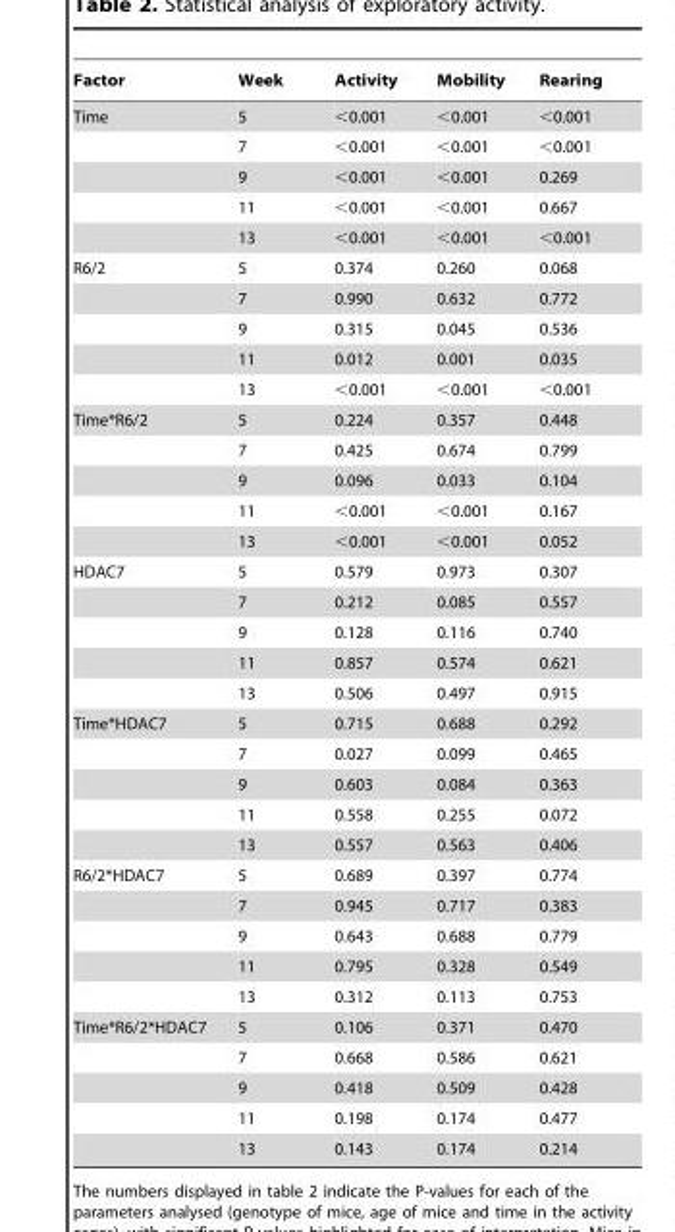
<table><thead><tr><td>Factor</td><td>Week</td><td>Activity</td><td>Mobility</td><td>Rearing</td></tr></thead><tbody><tr><td rowspan="5">Time</td><td>5</td><td>&lt;0.001</td><td>&lt;0.001</td><td>&lt;0.001</td></tr><tr><td>7</td><td>&lt;0.001</td><td>&lt;0.001</td><td>&lt;0.001</td></tr><tr><td>9</td><td>&lt;0.001</td><td>&lt;0.001</td><td>0.269</td></tr><tr><td>11</td><td>&lt;0.001</td><td>&lt;0.001</td><td>0.667</td></tr><tr><td>13</td><td>&lt;0.001</td><td>&lt;0.001</td><td>&lt;0.001</td></tr><tr><td rowspan="5">R6/2</td><td>5</td><td>0.374</td><td>0.260</td><td>0.068</td></tr><tr><td>7</td><td>0.990</td><td>0.632</td><td>0.772</td></tr><tr><td>9</td><td>0.315</td><td>0.045</td><td>0.536</td></tr><tr><td>11</td><td>0.012</td><td>0.001</td><td>0.035</td></tr><tr><td>13</td><td>&lt;0.001</td><td>&lt;0.001</td><td>&lt;0.001</td></tr><tr><td rowspan="5">Time*R6/2</td><td>5</td><td>0.224</td><td>0.357</td><td>0.448</td></tr><tr><td>7</td><td>0.425</td><td>0.674</td><td>0.799</td></tr><tr><td>9</td><td>0.096</td><td>0.033</td><td>0.104</td></tr><tr><td>11</td><td>&lt;0.001</td><td>&lt;0.001</td><td>0.167</td></tr><tr><td>13</td><td>&lt;0.001</td><td>&lt;0.001</td><td>0.052</td></tr><tr><td rowspan="5">HDAC7</td><td>5</td><td>0.579</td><td>0.973</td><td>0.307</td></tr><tr><td>7</td><td>0.212</td><td>0.085</td><td>0.557</td></tr><tr><td>9</td><td>0.128</td><td>0.116</td><td>0.740</td></tr><tr><td>11</td><td>0.857</td><td>0.574</td><td>0.621</td></tr><tr><td>13</td><td>0.506</td><td>0.497</td><td>0.915</td></tr><tr><td rowspan="5">Time*HDAC7</td><td>5</td><td>0.715</td><td>0.688</td><td>0.292</td></tr><tr><td>7</td><td>0.027</td><td>0.099</td><td>0.465</td></tr><tr><td>9</td><td>0.603</td><td>0.084</td><td>0.363</td></tr><tr><td>11</td><td>0.558</td><td>0.255</td><td>0.072</td></tr><tr><td>13</td><td>0.557</td><td>0.563</td><td>0.406</td></tr><tr><td rowspan="5">R6/2*HDAC7</td><td>5</td><td>0.689</td><td>0.397</td><td>0.774</td></tr><tr><td>7</td><td>0.945</td><td>0.717</td><td>0.383</td></tr><tr><td>9</td><td>0.643</td><td>0.688</td><td>0.779</td></tr><tr><td>11</td><td>0.795</td><td>0.328</td><td>0.549</td></tr><tr><td>13</td><td>0.312</td><td>0.113</td><td>0.753</td></tr><tr><td rowspan="5">Time*R6/2*HDAC7</td><td>5</td><td>0.106</td><td>0.371</td><td>0.470</td></tr><tr><td>7</td><td>0.668</td><td>0.586</td><td>0.621</td></tr><tr><td>9</td><td>0.418</td><td>0.509</td><td>0.428</td></tr><tr><td>11</td><td>0.198</td><td>0.174</td><td>0.477</td></tr><tr><td>13</td><td>0.143</td><td>0.174</td><td>0.214</td></tr></tbody></table>